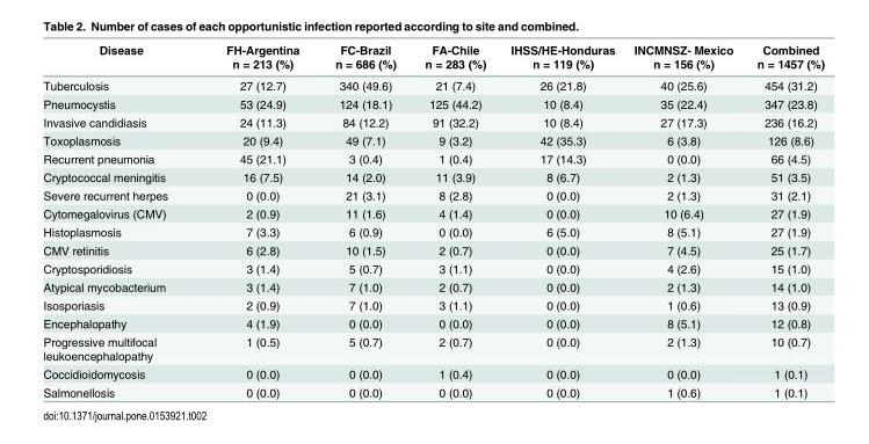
<table><thead><tr><td>Disease</td><td>FH-Argentina n = 213 (%)</td><td>FC-Brazil n = 686 (%)</td><td>FA-Chile n = 283 (%)</td><td>IHSS/HE-Honduras n = 119 (%)</td><td>INCMNSZ- Mexico n = 156 (%)</td><td>Combined n = 1457 (%)</td></tr></thead><tbody><tr><td>Tuberculosis</td><td>27 (12.7)</td><td>340 (49.6)</td><td>21 (7.4)</td><td>26 (21.8)</td><td>40 (25.6)</td><td>454 (31.2)</td></tr><tr><td>Pneumocystis</td><td>53 (24.9)</td><td>124 (18.1)</td><td>125 (44.2)</td><td>10 (8.4)</td><td>35 (22.4)</td><td>347 (23.8)</td></tr><tr><td>Invasive candidiasis</td><td>24 (11.3)</td><td>84 (12.2)</td><td>91 (32.2)</td><td>10 (8.4)</td><td>27 (17.3)</td><td>236 (16.2)</td></tr><tr><td>Toxoplasmosis</td><td>20 (9.4)</td><td>49 (7.1)</td><td>9 (3.2)</td><td>42 (35.3)</td><td>6 (3.8)</td><td>126 (8.6)</td></tr><tr><td>Recurrent pneumonia</td><td>45 (21.1)</td><td>3 (0.4)</td><td>1 (0.4)</td><td>17 (14.3)</td><td>0 (0.0)</td><td>66 (4.5)</td></tr><tr><td>Cryptococcal meningitis</td><td>16 (7.5)</td><td>14 (2.0)</td><td>11 (3.9)</td><td>8 (6.7)</td><td>2 (1.3)</td><td>51 (3.5)</td></tr><tr><td>Severe recurrent herpes</td><td>0 (0.0)</td><td>21 (3.1)</td><td>8 (2.8)</td><td>0 (0.0)</td><td>2 (1.3)</td><td>31 (2.1)</td></tr><tr><td>Cytomegalovirus (CMV)</td><td>2 (0.9)</td><td>11 (1.6)</td><td>4 (1.4)</td><td>0 (0.0)</td><td>10 (6.4)</td><td>27 (1.9)</td></tr><tr><td>Histoplasmosis</td><td>7 (3.3)</td><td>6 (0.9)</td><td>0 (0.0)</td><td>6 (5.0)</td><td>8 (5.1)</td><td>27 (1.9)</td></tr><tr><td>CMV retinitis</td><td>6 (2.8)</td><td>10 (1.5)</td><td>2 (0.7)</td><td>0 (0.0)</td><td>7 (4.5)</td><td>25 (1.7)</td></tr><tr><td>Cryptosporidiosis</td><td>3 (1.4)</td><td>5 (0.7)</td><td>3 (1.1)</td><td>0 (0.0)</td><td>4 (2.6)</td><td>15 (1.0)</td></tr><tr><td>Atypical mycobacterium</td><td>3 (1.4)</td><td>7 (1.0)</td><td>2 (0.7)</td><td>0 (0.0)</td><td>2 (1.3)</td><td>14 (1.0)</td></tr><tr><td>Isosporiasis</td><td>2 (0.9)</td><td>7 (1.0)</td><td>3 (1.1)</td><td>0 (0.0)</td><td>1 (0.6)</td><td>13 (0.9)</td></tr><tr><td>Encephalopathy</td><td>4 (1.9)</td><td>0 (0.0)</td><td>0 (0.0)</td><td>0 (0.0)</td><td>8 (5.1)</td><td>12 (0.8)</td></tr><tr><td>Progressive multifocal leukoencephalopathy</td><td>1 (0.5)</td><td>5 (0.7)</td><td>2 (0.7)</td><td>0 (0.0)</td><td>2 (1.3)</td><td>10 (0.7)</td></tr><tr><td>Coccidioidomycosis</td><td>0 (0.0)</td><td>0 (0.0)</td><td>1 (0.4)</td><td>0 (0.0)</td><td>0 (0.0)</td><td>1 (0.1)</td></tr><tr><td>Salmonellosis</td><td>0 (0.0)</td><td>0 (0.0)</td><td>0 (0.0)</td><td>0 (0.0)</td><td>1 (0.6)</td><td>1 (0.1)</td></tr></tbody></table>